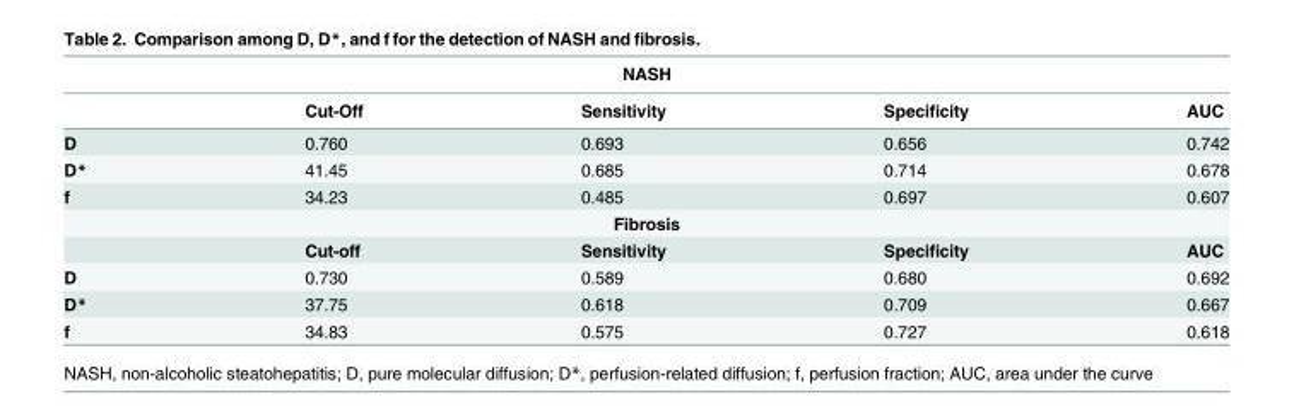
<table><thead><tr><td colspan="5">NASH</td></tr><tr><td></td><td>Cut-Off</td><td>Sensitivity</td><td>Specificity</td><td>AUC</td></tr></thead><tbody><tr><td>D</td><td>0.760</td><td>0.693</td><td>0.656</td><td>0.742</td></tr><tr><td>D*</td><td>41.45</td><td>0.685</td><td>0.714</td><td>0.678</td></tr><tr><td>f</td><td>34.23</td><td>0.485</td><td>0.697</td><td>0.607</td></tr><tr><td colspan="5">Fibrosis</td></tr><tr><td></td><td>Cut-off</td><td>Sensitivity</td><td>Specificity</td><td>AUC</td></tr><tr><td>D</td><td>0.730</td><td>0.589</td><td>0.680</td><td>0.692</td></tr><tr><td>D*</td><td>37.75</td><td>0.618</td><td>0.709</td><td>0.667</td></tr><tr><td>f</td><td>34.83</td><td>0.575</td><td>0.727</td><td>0.618</td></tr></tbody></table>